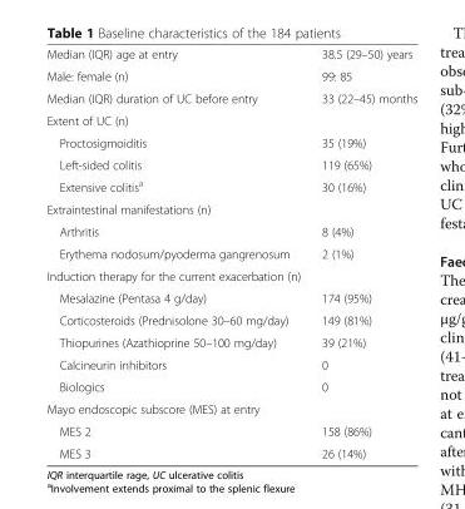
<table><tbody><tr><td>Median (IQR) age at entry</td><td>38.5 (29–50) years</td></tr><tr><td>Male: female (n)</td><td>99: 85</td></tr><tr><td>Median (IQR) duration of UC before entry</td><td>33 (22–45) months</td></tr><tr><td colspan="2">Extent of UC (n)</td></tr><tr><td>Proctosigmoiditis</td><td>35 (19%)</td></tr><tr><td>Left-sided colitis</td><td>119 (65%)</td></tr><tr><td>Extensive colitis<sup>a</sup></td><td>30 (16%)</td></tr><tr><td colspan="2">Extraintestinal manifestations (n)</td></tr><tr><td>Arthritis</td><td>8 (4%)</td></tr><tr><td>Erythema nodosum/pyoderma gangrenosum</td><td>2 (1%)</td></tr><tr><td colspan="2">Induction therapy for the current exacerbation (n)</td></tr><tr><td>Mesalazine (Pentasa 4 g/day)</td><td>174 (95%)</td></tr><tr><td>Corticosteroids (Prednisolone 30–60 mg/day)</td><td>149 (81%)</td></tr><tr><td>Thiopurines (Azathioprine 50–100 mg/day)</td><td>39 (21%)</td></tr><tr><td>Calcineurin inhibitors</td><td>0</td></tr><tr><td>Biologics</td><td>0</td></tr><tr><td colspan="2">Mayo endoscopic subscore (MES) at entry</td></tr><tr><td>MES 2</td><td>158 (86%)</td></tr><tr><td>MES 3</td><td>26 (14%)</td></tr></tbody></table>